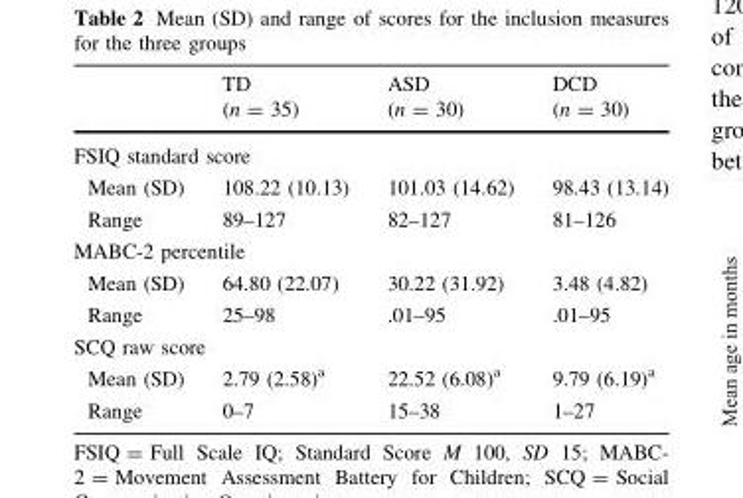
<table><thead><tr><td></td><td>TD (n = 35)</td><td>ASD (n = 30)</td><td>DCD (n = 30)</td></tr></thead><tbody><tr><td colspan="4">FSIQ standard score</td></tr><tr><td>Mean (SD)</td><td>108.22 (10.13)</td><td>101.03 (14.62)</td><td>98.43 (13.14)</td></tr><tr><td>Range</td><td>89–127</td><td>82–127</td><td>81–126</td></tr><tr><td colspan="4">MABC-2 percentile</td></tr><tr><td>Mean (SD)</td><td>64.80 (22.07)</td><td>30.22 (31.92)</td><td>3.48 (4.82)</td></tr><tr><td>Range</td><td>25–98</td><td>.01–95</td><td>.01–95</td></tr><tr><td colspan="4">SCQ raw score</td></tr><tr><td>Mean (SD)</td><td>2.79 (2.58)<sup>a</sup></td><td>22.52 (6.08)<sup>a</sup></td><td>9.79 (6.19)<sup>a</sup></td></tr><tr><td>Range</td><td>0–7</td><td>15–38</td><td>1–27</td></tr></tbody></table>